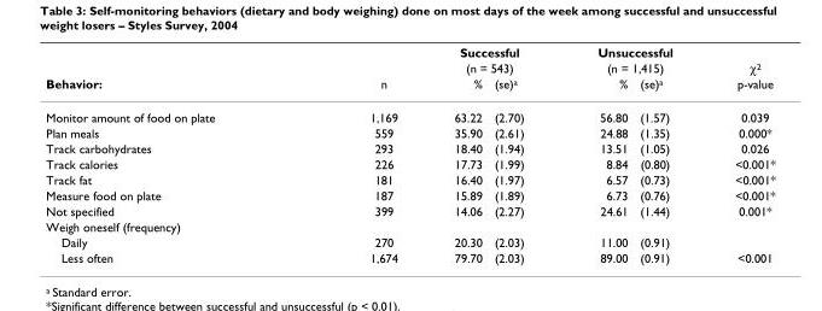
<table><thead><tr><td rowspan="3">Behavior:</td><td rowspan="3">n</td><td rowspan="2" colspan="2">Successful (n = 543)</td><td rowspan="2" colspan="2">Unsuccessful (n = 1,415)</td><td rowspan="3">χ<sup>2</sup> p-value</td></tr><tr></tr><tr><td>%</td><td>(se)<sup>a</sup></td><td>%</td><td>(se)<sup>a</sup></td></tr></thead><tbody><tr><td>Monitor amount of food on plate</td><td>1,169</td><td>63.22</td><td>(2.70)</td><td>56.80</td><td>(1.57)</td><td>0.039</td></tr><tr><td>Plan meals</td><td>559</td><td>35.90</td><td>(2.61)</td><td>24.88</td><td>(1.35)</td><td>0.000*</td></tr><tr><td>Track carbohydrates</td><td>293</td><td>18.40</td><td>(1.94)</td><td>13.51</td><td>(1.05)</td><td>0.026</td></tr><tr><td>Track calories</td><td>226</td><td>17.73</td><td>(1.99)</td><td>8.84</td><td>(0.80)</td><td>&lt;0.001*</td></tr><tr><td>Track fat</td><td>181</td><td>16.40</td><td>(1.97)</td><td>6.57</td><td>(0.73)</td><td>&lt;0.001*</td></tr><tr><td>Measure food on plate</td><td>187</td><td>15.89</td><td>(1.89)</td><td>6.73</td><td>(0.76)</td><td>&lt;0.001*</td></tr><tr><td>Not specified</td><td>399</td><td>14.06</td><td>(2.27)</td><td>24.61</td><td>(1.44)</td><td>0.001*</td></tr><tr><td colspan="7">Weigh oneself (frequency)</td></tr><tr><td>Daily</td><td>270</td><td>20.30</td><td>(2.03)</td><td>11.00</td><td>(0.91)</td><td></td></tr><tr><td>Less often</td><td>1,674</td><td>79.70</td><td>(2.03)</td><td>89.00</td><td>(0.91)</td><td>&lt;0.001</td></tr></tbody></table>